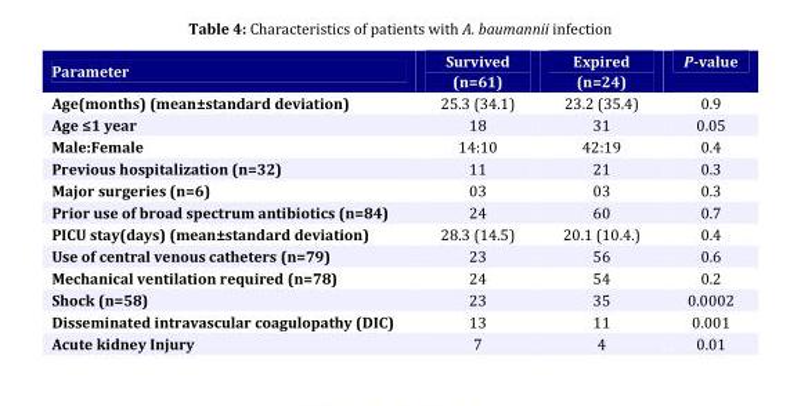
<table><thead><tr><td>Parameter</td><td>Survived (n=61)</td><td>Expired (n=24)</td><td>P-value</td></tr></thead><tbody><tr><td>Age(months) (mean±standard deviation)</td><td>25.3 (34.1)</td><td>23.2 (35.4)</td><td>0.9</td></tr><tr><td>Age ≤1 year</td><td>18</td><td>31</td><td>0.05</td></tr><tr><td>Male:Female</td><td>14:10</td><td>42:19</td><td>0.4</td></tr><tr><td>Previous hospitalization (n=32)</td><td>11</td><td>21</td><td>0.3</td></tr><tr><td>Major surgeries (n=6)</td><td>03</td><td>03</td><td>0.3</td></tr><tr><td>Prior use of broad spectrum antibiotics (n=84)</td><td>24</td><td>60</td><td>0.7</td></tr><tr><td>PICU stay(days) (mean±standard deviation)</td><td>28.3 (14.5)</td><td>20.1 (10.4.)</td><td>0.4</td></tr><tr><td>Use of central venous catheters (n=79)</td><td>23</td><td>56</td><td>0.6</td></tr><tr><td>Mechanical ventilation required (n=78)</td><td>24</td><td>54</td><td>0.2</td></tr><tr><td>Shock (n=58)</td><td>23</td><td>35</td><td>0.0002</td></tr><tr><td>Disseminated intravascular coagulopathy (DIC)</td><td>13</td><td>11</td><td>0.001</td></tr><tr><td>Acute kidney Injury</td><td>7</td><td>4</td><td>0.01</td></tr></tbody></table>